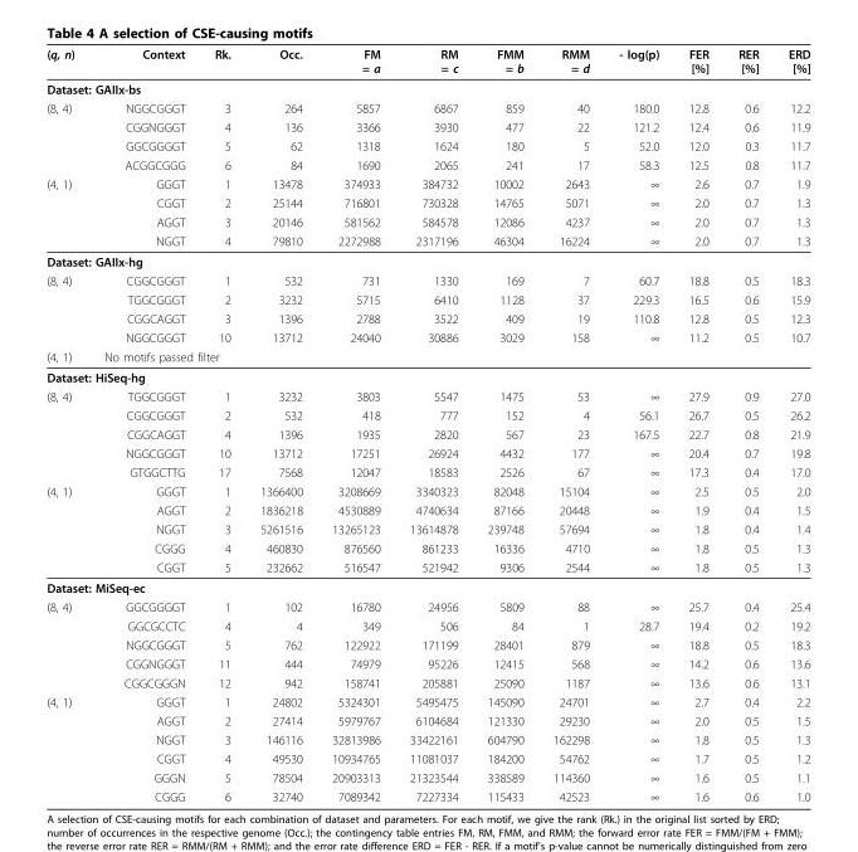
<table><thead><tr><td>(q, n)</td><td>Context</td><td>Rk.</td><td>Occ.</td><td>FM = a</td><td>RM = c</td><td>FMM = b</td><td>RMM = d</td><td>- log(p)</td><td>FER [%]</td><td>RER [%]</td><td>ERD [%]</td></tr></thead><tbody><tr><td colspan="12">Dataset: GAIIx-bs</td></tr><tr><td rowspan="4">(8, 4)</td><td>NGGCGGGT</td><td>3</td><td>264</td><td>5857</td><td>6867</td><td>859</td><td>40</td><td>180.0</td><td>12.8</td><td>0.6</td><td>12.2</td></tr><tr><td>CGGNGGGT</td><td>4</td><td>136</td><td>3366</td><td>3930</td><td>477</td><td>22</td><td>121.2</td><td>12.4</td><td>0.6</td><td>11.9</td></tr><tr><td>GGCGGGGT</td><td>5</td><td>62</td><td>1318</td><td>1624</td><td>180</td><td>5</td><td>52.0</td><td>12.0</td><td>0.3</td><td>11.7</td></tr><tr><td>ACGGCGGG</td><td>6</td><td>84</td><td>1690</td><td>2065</td><td>241</td><td>17</td><td>58.3</td><td>12.5</td><td>0.8</td><td>11.7</td></tr><tr><td rowspan="4">(4, 1)</td><td>GGGT</td><td>1</td><td>13478</td><td>374933</td><td>384732</td><td>10002</td><td>2643</td><td>∞</td><td>2.6</td><td>0.7</td><td>1.9</td></tr><tr><td>CGGT</td><td>2</td><td>25144</td><td>716801</td><td>730328</td><td>14765</td><td>5071</td><td>∞</td><td>2.0</td><td>0.7</td><td>1.3</td></tr><tr><td>AGGT</td><td>3</td><td>20146</td><td>581562</td><td>584578</td><td>12086</td><td>4237</td><td>∞</td><td>2.0</td><td>0.7</td><td>1.3</td></tr><tr><td>NGGT</td><td>4</td><td>79810</td><td>2272988</td><td>2317196</td><td>46304</td><td>16224</td><td>∞</td><td>2.0</td><td>0.7</td><td>1.3</td></tr><tr><td colspan="12">Dataset: GAIIx-hg</td></tr><tr><td rowspan="4">(8, 4)</td><td>CGGCGGGT</td><td>1</td><td>532</td><td>731</td><td>1330</td><td>169</td><td>7</td><td>60.7</td><td>18.8</td><td>0.5</td><td>18.3</td></tr><tr><td>TGGCGGGT</td><td>2</td><td>3232</td><td>5715</td><td>6410</td><td>1128</td><td>37</td><td>229.3</td><td>16.5</td><td>0.6</td><td>15.9</td></tr><tr><td>CGGCAGGT</td><td>3</td><td>1396</td><td>2788</td><td>3522</td><td>409</td><td>19</td><td>110.8</td><td>12.8</td><td>0.5</td><td>12.3</td></tr><tr><td>NGGCGGGT</td><td>10</td><td>13712</td><td>24040</td><td>30886</td><td>3029</td><td>158</td><td>∞</td><td>11.2</td><td>0.5</td><td>10.7</td></tr><tr><td>(4, 1)</td><td colspan="11">No motifs passed filter</td></tr><tr><td colspan="12">Dataset: HiSeq-hg</td></tr><tr><td rowspan="5">(8, 4)</td><td>TGGCGGGT</td><td>1</td><td>3232</td><td>3803</td><td>5547</td><td>1475</td><td>53</td><td>∞</td><td>27.9</td><td>0.9</td><td>27.0</td></tr><tr><td>CGGCGGGT</td><td>2</td><td>532</td><td>418</td><td>777</td><td>152</td><td>4</td><td>56.1</td><td>26.7</td><td>0.5</td><td>26.2</td></tr><tr><td>CGGCAGGT</td><td>4</td><td>1396</td><td>1935</td><td>2820</td><td>567</td><td>23</td><td>167.5</td><td>22.7</td><td>0.8</td><td>21.9</td></tr><tr><td>NGGCGGGT</td><td>10</td><td>13712</td><td>17251</td><td>26924</td><td>4432</td><td>177</td><td>∞</td><td>20.4</td><td>0.7</td><td>19.8</td></tr><tr><td>GTGGCTTG</td><td>17</td><td>7568</td><td>12047</td><td>18583</td><td>2526</td><td>67</td><td>∞</td><td>17.3</td><td>0.4</td><td>17.0</td></tr><tr><td rowspan="5">(4, 1)</td><td>GGGT</td><td>1</td><td>1366400</td><td>3208669</td><td>3340323</td><td>82048</td><td>15104</td><td>∞</td><td>2.5</td><td>0.5</td><td>2.0</td></tr><tr><td>AGGT</td><td>2</td><td>1836218</td><td>4530889</td><td>4740634</td><td>87166</td><td>20448</td><td>∞</td><td>1.9</td><td>0.4</td><td>1.5</td></tr><tr><td>NGGT</td><td>3</td><td>5261516</td><td>13265123</td><td>13614878</td><td>239748</td><td>57694</td><td>∞</td><td>1.8</td><td>0.4</td><td>1.4</td></tr><tr><td>CGGG</td><td>4</td><td>460830</td><td>876560</td><td>861233</td><td>16336</td><td>4710</td><td>∞</td><td>1.8</td><td>0.5</td><td>1.3</td></tr><tr><td>CGGT</td><td>5</td><td>232662</td><td>516547</td><td>521942</td><td>9306</td><td>2544</td><td>∞</td><td>1.8</td><td>0.5</td><td>1.3</td></tr><tr><td colspan="12">Dataset: MiSeq-ec</td></tr><tr><td rowspan="5">(8, 4)</td><td>GGCGGGGT</td><td>1</td><td>102</td><td>16780</td><td>24956</td><td>5809</td><td>88</td><td>∞</td><td>25.7</td><td>0.4</td><td>25.4</td></tr><tr><td>GGCGCCTC</td><td>4</td><td>4</td><td>349</td><td>506</td><td>84</td><td>1</td><td>28.7</td><td>19.4</td><td>0.2</td><td>19.2</td></tr><tr><td>NGGCGGGT</td><td>5</td><td>762</td><td>122922</td><td>171199</td><td>28401</td><td>879</td><td>∞</td><td>18.8</td><td>0.5</td><td>18.3</td></tr><tr><td>CGGNGGGT</td><td>11</td><td>444</td><td>74979</td><td>95226</td><td>12415</td><td>568</td><td>∞</td><td>14.2</td><td>0.6</td><td>13.6</td></tr><tr><td>CGGCGGGN</td><td>12</td><td>942</td><td>158741</td><td>205881</td><td>25090</td><td>1187</td><td>∞</td><td>13.6</td><td>0.6</td><td>13.1</td></tr><tr><td rowspan="6">(4, 1)</td><td>GGGT</td><td>1</td><td>24802</td><td>5324301</td><td>5495475</td><td>145090</td><td>24701</td><td>∞</td><td>2.7</td><td>0.4</td><td>2.2</td></tr><tr><td>AGGT</td><td>2</td><td>27414</td><td>5979767</td><td>6104684</td><td>121330</td><td>29230</td><td>∞</td><td>2.0</td><td>0.5</td><td>1.5</td></tr><tr><td>NGGT</td><td>3</td><td>146116</td><td>32813986</td><td>33422161</td><td>604790</td><td>162298</td><td>∞</td><td>1.8</td><td>0.5</td><td>1.3</td></tr><tr><td>CGGT</td><td>4</td><td>49530</td><td>10934765</td><td>11081037</td><td>184200</td><td>54762</td><td>∞</td><td>1.7</td><td>0.5</td><td>1.2</td></tr><tr><td>GGGN</td><td>5</td><td>78504</td><td>20903313</td><td>21323544</td><td>338589</td><td>114360</td><td>∞</td><td>1.6</td><td>0.5</td><td>1.1</td></tr><tr><td>CGGG</td><td>6</td><td>32740</td><td>7089342</td><td>7227334</td><td>115433</td><td>42523</td><td>∞</td><td>1.6</td><td>0.6</td><td>1.0</td></tr></tbody></table>